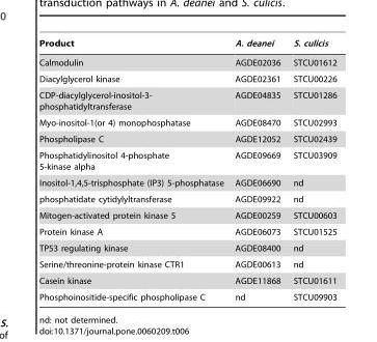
<table><thead><tr><td>Product</td><td>A. deanei</td><td>S. culicis</td></tr></thead><tbody><tr><td>Calmodulin</td><td>AGDE02036</td><td>STCU01612</td></tr><tr><td>Diacylglycerol kinase</td><td>AGDE02361</td><td>STCU00226</td></tr><tr><td>CDP-diacylglycerol-inositol-3- phosphatidyltransferase</td><td>AGDE04835</td><td>STCU01286</td></tr><tr><td>Myo-inositol-1(or 4) monophosphatase</td><td>AGDE08470</td><td>STCU02993</td></tr><tr><td>Phospholipase C</td><td>AGDE12052</td><td>STCU02439</td></tr><tr><td>Phosphatidylinositol 4-phosphate 5-kinase alpha</td><td>AGDE09669</td><td>STCU03909</td></tr><tr><td>Inositol-1,4,5-trisphosphate (IP3) 5-phosphatase</td><td>AGDE06690</td><td>nd</td></tr><tr><td>phosphatidate cytidylyltransferase</td><td>AGDE09922</td><td>nd</td></tr><tr><td>Mitogen-activated protein kinase 5</td><td>AGDE00259</td><td>STCU00603</td></tr><tr><td>Protein kinase A</td><td>AGDE06073</td><td>STCU01525</td></tr><tr><td>TP53 regulating kinase</td><td>AGDE08400</td><td>nd</td></tr><tr><td>Serine/threonine-protein kinase CTR1</td><td>AGDE00613</td><td>nd</td></tr><tr><td>Casein kinase</td><td>AGDE11868</td><td>STCU01611</td></tr><tr><td>Phosphoinositide-specific phospholipase C</td><td>nd</td><td>STCU09903</td></tr></tbody></table>